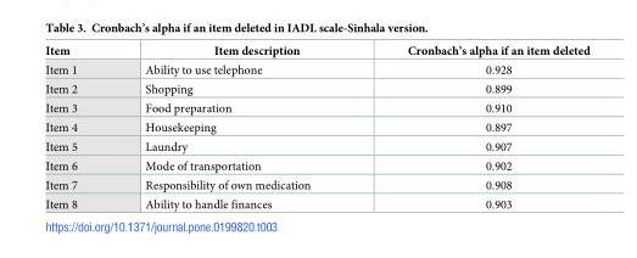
<table><thead><tr><td>Item</td><td>Item description</td><td>Cronbach’s alpha if an item deleted</td></tr></thead><tbody><tr><td>Item 1</td><td>Ability to use telephone</td><td>0.928</td></tr><tr><td>Item 2</td><td>Shopping</td><td>0.899</td></tr><tr><td>Item 3</td><td>Food preparation</td><td>0.910</td></tr><tr><td>Item 4</td><td>Housekeeping</td><td>0.897</td></tr><tr><td>Item 5</td><td>Laundry</td><td>0.907</td></tr><tr><td>Item 6</td><td>Mode of transportation</td><td>0.902</td></tr><tr><td>Item 7</td><td>Responsibility of own medication</td><td>0.908</td></tr><tr><td>Item 8</td><td>Ability to handle finances</td><td>0.903</td></tr></tbody></table>